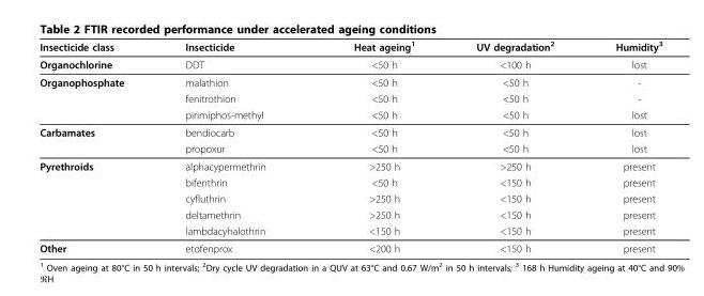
<table><thead><tr><td>Insecticide class</td><td>Insecticide</td><td>Heat ageing<sup>1</sup></td><td>UV degradation<sup>2</sup></td><td>Humidity<sup>3</sup></td></tr></thead><tbody><tr><td>Organochlorine</td><td>DDT</td><td>&lt;50 h</td><td>&lt;100 h</td><td>lost</td></tr><tr><td rowspan="3">Organophosphate</td><td>malathion</td><td>&lt;50 h</td><td>&lt;50 h</td><td>-</td></tr><tr><td>fenitrothion</td><td>&lt;50 h</td><td>&lt;50 h</td><td>-</td></tr><tr><td>pirimiphos-methyl</td><td>&lt;50 h</td><td>&lt;50 h</td><td>lost</td></tr><tr><td rowspan="2">Carbamates</td><td>bendiocarb</td><td>&lt;50 h</td><td>&lt;50 h</td><td>lost</td></tr><tr><td>propoxur</td><td>&lt;50 h</td><td>&lt;50 h</td><td>lost</td></tr><tr><td rowspan="5">Pyrethroids</td><td>alphacypermethrin</td><td>&gt;250 h</td><td>&gt;250 h</td><td>present</td></tr><tr><td>bifenthrin</td><td>&lt;50 h</td><td>&lt;150 h</td><td>present</td></tr><tr><td>cyfluthrin</td><td>&gt;250 h</td><td>&lt;150 h</td><td>present</td></tr><tr><td>deltamethrin</td><td>&gt;250 h</td><td>&lt;150 h</td><td>present</td></tr><tr><td>lambdacyhalothrin</td><td>&lt;150 h</td><td>&lt;150 h</td><td>present</td></tr><tr><td>Other</td><td>etofenprox</td><td>&lt;200 h</td><td>&lt;150 h</td><td>present</td></tr></tbody></table>